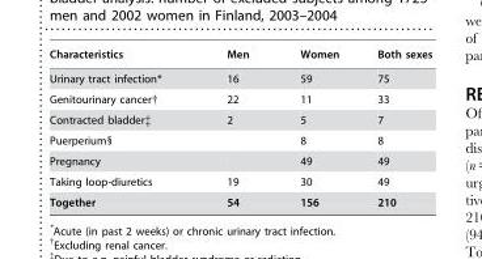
<table><thead><tr><td>Characteristics</td><td>Men</td><td>Women</td><td>Both sexes</td></tr></thead><tbody><tr><td>Urinary tract infection*</td><td>16</td><td>59</td><td>75</td></tr><tr><td>Genitourinary cancer†</td><td>22</td><td>11</td><td>33</td></tr><tr><td>Contracted bladder‡</td><td>2</td><td>5</td><td>7</td></tr><tr><td>Puerperium§</td><td></td><td>8</td><td>8</td></tr><tr><td>Pregnancy</td><td></td><td>49</td><td>49</td></tr><tr><td>Taking loop-diuretics</td><td>19</td><td>30</td><td>49</td></tr><tr><td>Together</td><td>54</td><td>156</td><td>210</td></tr></tbody></table>